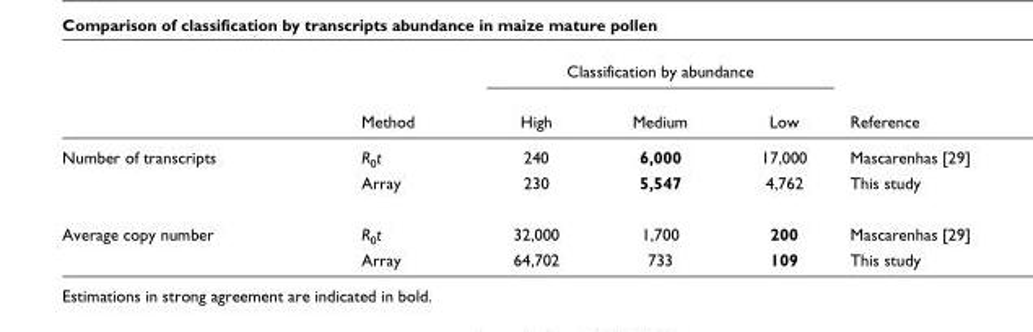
<table><thead><tr><td rowspan="2"></td><td rowspan="2">Method</td><td colspan="3">Classification by abundance</td><td rowspan="2">Reference</td></tr><tr><td>High</td><td>Medium</td><td>Low</td></tr></thead><tbody><tr><td rowspan="2">Number of transcripts</td><td>R<sub>0</sub>t</td><td>240</td><td>6,000</td><td>17,000</td><td>Mascarenhas [29]</td></tr><tr><td>Array</td><td>230</td><td>5,547</td><td>4,762</td><td>This study</td></tr><tr><td rowspan="2">Average copy number</td><td>R<sub>0</sub>t</td><td>32,000</td><td>1,700</td><td>200</td><td>Mascarenhas [29]</td></tr><tr><td>Array</td><td>64,702</td><td>733</td><td>109</td><td>This study</td></tr></tbody></table>